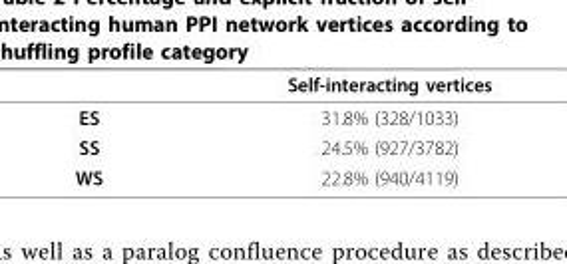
<table><thead><tr><td></td><td>Self-interacting vertices</td></tr></thead><tbody><tr><td>ES</td><td>31.8% (328/1033)</td></tr><tr><td>SS</td><td>24.5% (927/3782)</td></tr><tr><td>WS</td><td>22.8% (940/4119)</td></tr></tbody></table>